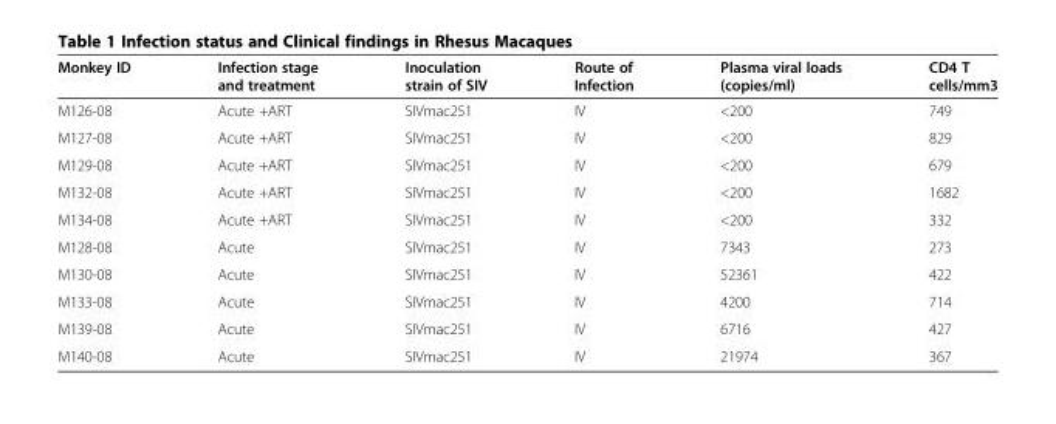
<table><thead><tr><td>Monkey ID</td><td>Infection stage and treatment</td><td>Inoculation strain of SIV</td><td>Route of Infection</td><td>Plasma viral loads (copies/ml)</td><td>CD4 T cells/mm3</td></tr></thead><tbody><tr><td>M126-08</td><td>Acute +ART</td><td>SIVmac251</td><td>IV</td><td>&lt;200</td><td>749</td></tr><tr><td>M127-08</td><td>Acute +ART</td><td>SIVmac251</td><td>IV</td><td>&lt;200</td><td>829</td></tr><tr><td>M129-08</td><td>Acute +ART</td><td>SIVmac251</td><td>IV</td><td>&lt;200</td><td>679</td></tr><tr><td>M132-08</td><td>Acute +ART</td><td>SIVmac251</td><td>IV</td><td>&lt;200</td><td>1682</td></tr><tr><td>M134-08</td><td>Acute +ART</td><td>SIVmac251</td><td>IV</td><td>&lt;200</td><td>332</td></tr><tr><td>M128-08</td><td>Acute</td><td>SIVmac251</td><td>IV</td><td>7343</td><td>273</td></tr><tr><td>M130-08</td><td>Acute</td><td>SIVmac251</td><td>IV</td><td>52361</td><td>422</td></tr><tr><td>M133-08</td><td>Acute</td><td>SIVmac251</td><td>IV</td><td>4200</td><td>714</td></tr><tr><td>M139-08</td><td>Acute</td><td>SIVmac251</td><td>IV</td><td>6716</td><td>427</td></tr><tr><td>M140-08</td><td>Acute</td><td>SIVmac251</td><td>IV</td><td>21974</td><td>367</td></tr></tbody></table>